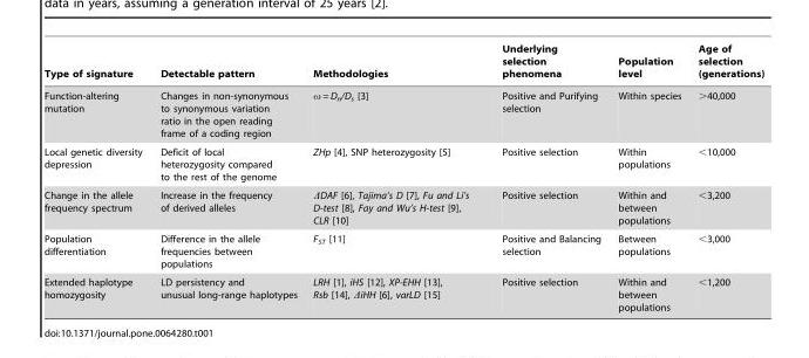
<table><thead><tr><td>Type of signature</td><td>Detectable pattern</td><td>Methodologies</td><td>Underlying selection phenomena</td><td>Population level</td><td>Age of selection (generations)</td></tr></thead><tbody><tr><td>Function-altering mutation</td><td>Changes in non-synonymous to synonymous variation ratio in the open reading frame of a coding region</td><td>ω = D<sub>n</sub>/D<sub>s</sub> [3]</td><td>Positive and Purifying selection</td><td>Within species</td><td>&gt;40,000</td></tr><tr><td>Local genetic diversity depression</td><td>Deficit of local heterozygosity compared to the rest of the genome</td><td>ZHp [4], SNP heterozygosity [5]</td><td>Positive selection</td><td>Within populations</td><td>&lt;10,000</td></tr><tr><td>Change in the allele frequency spectrum</td><td>Increase in the frequency of derived alleles</td><td>ΔDAF [6], Tajima’s D [7], Fu and Li’s D-test [8], Fay and Wu’s H-test [9], CLR [10]</td><td>Positive selection</td><td>Within and between populations</td><td>&lt;3,200</td></tr><tr><td>Population differentiation</td><td>Difference in the allele frequencies between populations</td><td>F<sub>ST</sub> [11]</td><td>Positive and Balancing selection</td><td>Between populations</td><td>&lt;3,000</td></tr><tr><td>Extended haplotype homozygosity</td><td>LD persistency and unusual long-range haplotypes</td><td>LRH [1], iHS [12], XP-EHH [13], Rsb [14], ΔiHH [6], varLD [15]</td><td>Positive selection</td><td>Within and between populations</td><td>&lt;1,200</td></tr></tbody></table>